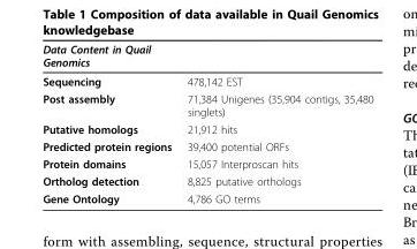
<table><thead><tr><td>Data Content in Quail Genomics</td><td></td></tr></thead><tbody><tr><td>Sequencing</td><td>478,142 EST</td></tr><tr><td>Post assembly</td><td>71,384 Unigenes (35,904 contigs, 35,480 singlets)</td></tr><tr><td>Putative homologs</td><td>21,912 hits</td></tr><tr><td>Predicted protein regions</td><td>39,400 potential ORFs</td></tr><tr><td>Protein domains</td><td>15,057 Interproscan hits</td></tr><tr><td>Ortholog detection</td><td>8,825 putative orthologs</td></tr><tr><td>Gene Ontology</td><td>4,786 GO terms</td></tr></tbody></table>